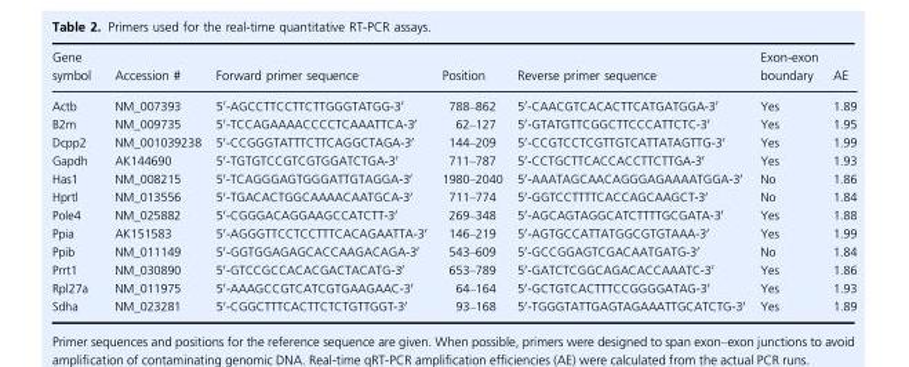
<table><thead><tr><td>Gene symbol</td><td>Accession #</td><td>Forward primer sequence</td><td>Position</td><td>Reverse primer sequence</td><td>Exon-exon boundary</td><td>AE</td></tr></thead><tbody><tr><td>Actb</td><td>NM_007393</td><td>5′-AGCCTTCCTTCTTGGGTATGG-3′</td><td>788–862</td><td>5′-CAACGTCACACTTCATGATGGA-3′</td><td>Yes</td><td>1.89</td></tr><tr><td>B2m</td><td>NM_009735</td><td>5′-TCCAGAAAACCCCTCAAATTCA-3′</td><td>62–127</td><td>5′-GTATGTTCGGCTTCCCATTCTC-3′</td><td>Yes</td><td>1.95</td></tr><tr><td>Dcpp2</td><td>NM_001039238</td><td>5′-CCGGGTATTTCTTCAGGCTAGA-3′</td><td>144–209</td><td>5′-CCGTCCTCGTTGTCATTATAGTTG-3′</td><td>Yes</td><td>1.99</td></tr><tr><td>Gapdh</td><td>AK144690</td><td>5′-TGTGTCCGTCGTGGATCTGA-3′</td><td>711–787</td><td>5′-CCTGCTTCACCACCTTCTTGA-3′</td><td>Yes</td><td>1.93</td></tr><tr><td>Has1</td><td>NM_008215</td><td>5′-TCAGGGAGTGGGATTGTAGGA-3′</td><td>1980–2040</td><td>5′-AAATAGCAACAGGGAGAAAATGGA-3′</td><td>No</td><td>1.86</td></tr><tr><td>Hprtl</td><td>NM_013556</td><td>5′-TGACACTGGCAAAACAATGCA-3′</td><td>711–774</td><td>5′-GGTCCTTTTCACCAGCAAGCT-3′</td><td>No</td><td>1.84</td></tr><tr><td>Pole4</td><td>NM_025882</td><td>5′-CGGGACAGGAAGCCATCTT-3′</td><td>269–348</td><td>5′-AGCAGTAGGCATCTTTTGCGATA-3′</td><td>Yes</td><td>1.88</td></tr><tr><td>Ppia</td><td>AK151583</td><td>5′-AGGGTTCCTCCTTTCACAGAATTA-3′</td><td>146–219</td><td>5′-AGTGCCATTATGGCGTGTAAA-3′</td><td>Yes</td><td>1.99</td></tr><tr><td>Ppib</td><td>NM_011149</td><td>5′-GGTGGAGAGCACCAAGACAGA-3′</td><td>543–609</td><td>5′-GCCGGAGTCGACAATGATG-3′</td><td>No</td><td>1.84</td></tr><tr><td>Prrt1</td><td>NM_030890</td><td>5′-GTCCGCCACACGACTACATG-3′</td><td>653–789</td><td>5′-GATCTCGGCAGACACCAAATC-3′</td><td>Yes</td><td>1.86</td></tr><tr><td>Rpl27a</td><td>NM_011975</td><td>5′-AAAGCCGTCATCGTGAAGAAC-3′</td><td>64–164</td><td>5′-GCTGTCACTTTCCGGGGATAG-3′</td><td>Yes</td><td>1.93</td></tr><tr><td>Sdha</td><td>NM_023281</td><td>5′-CGGCTTTCACTTCTCTGTTGGT-3′</td><td>93–168</td><td>5′-TGGGTATTGAGTAGAAATTGCATCTG-3′</td><td>Yes</td><td>1.89</td></tr></tbody></table>